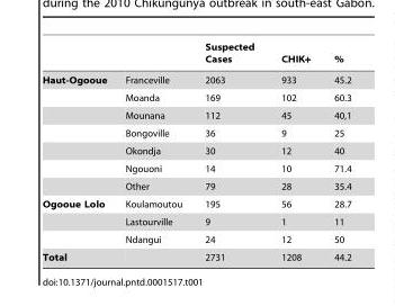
<table><thead><tr><td></td><td></td><td>Suspected Cases</td><td>CHIK+</td><td>%</td></tr></thead><tbody><tr><td rowspan="7">Haut-Ogooue</td><td>Franceville</td><td>2063</td><td>933</td><td>45.2</td></tr><tr><td>Moanda</td><td>169</td><td>102</td><td>60.3</td></tr><tr><td>Mounana</td><td>112</td><td>45</td><td>40,1</td></tr><tr><td>Bongoville</td><td>36</td><td>9</td><td>25</td></tr><tr><td>Okondja</td><td>30</td><td>12</td><td>40</td></tr><tr><td>Ngouoni</td><td>14</td><td>10</td><td>71.4</td></tr><tr><td>Other</td><td>79</td><td>28</td><td>35.4</td></tr><tr><td rowspan="3">Ogooue Lolo</td><td>Koulamoutou</td><td>195</td><td>56</td><td>28.7</td></tr><tr><td>Lastourville</td><td>9</td><td>1</td><td>11</td></tr><tr><td>Ndangui</td><td>24</td><td>12</td><td>50</td></tr><tr><td>Total</td><td></td><td>2731</td><td>1208</td><td>44.2</td></tr></tbody></table>